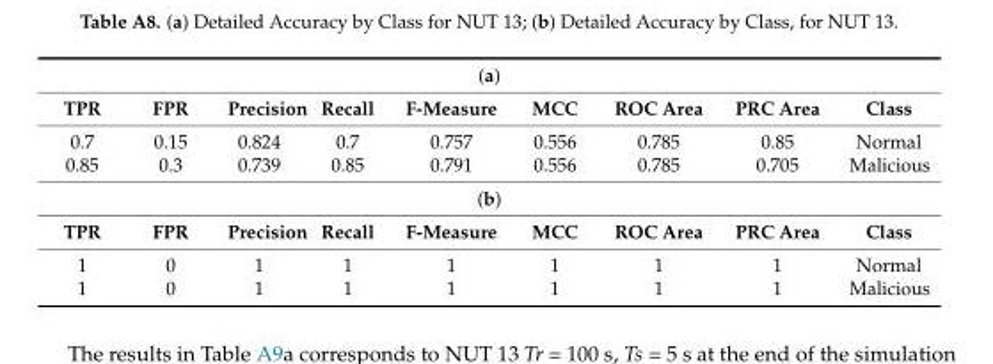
<table><tbody><tr><td colspan="9">(a)</td></tr><tr><td>TPR</td><td>FPR</td><td>Precision</td><td>Recall</td><td>F-Measure</td><td>MCC</td><td>ROC Area</td><td>PRC Area</td><td>Class</td></tr><tr><td>0.7</td><td>0.15</td><td>0.824</td><td>0.7</td><td>0.757</td><td>0.556</td><td>0.785</td><td>0.85</td><td>Normal</td></tr><tr><td>0.85</td><td>0.3</td><td>0.739</td><td>0.85</td><td>0.791</td><td>0.556</td><td>0.785</td><td>0.705</td><td>Malicious</td></tr><tr><td colspan="9">(b)</td></tr><tr><td>TPR</td><td>FPR</td><td>Precision</td><td>Recall</td><td>F-Measure</td><td>MCC</td><td>ROC Area</td><td>PRC Area</td><td>Class</td></tr><tr><td>1</td><td>0</td><td>1</td><td>1</td><td>1</td><td>1</td><td>1</td><td>1</td><td>Normal</td></tr><tr><td>1</td><td>0</td><td>1</td><td>1</td><td>1</td><td>1</td><td>1</td><td>1</td><td>Malicious</td></tr></tbody></table>